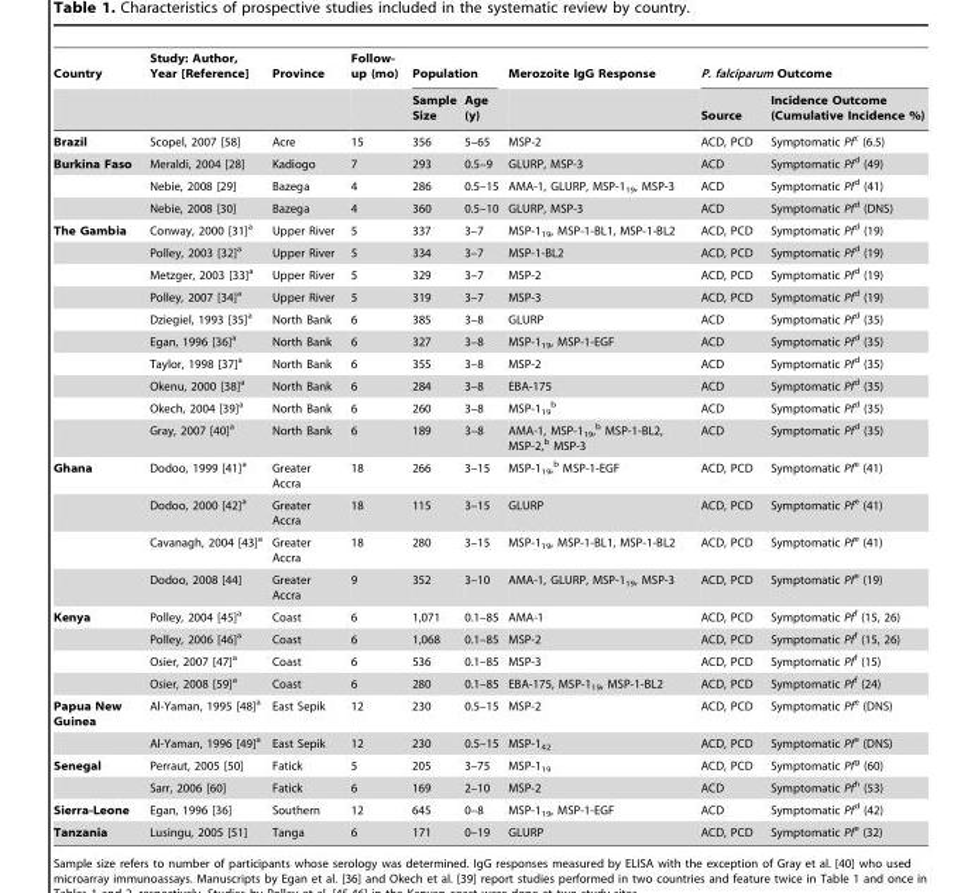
<table><thead><tr><td rowspan="2">Country</td><td rowspan="2">Study: Author, Year [Reference]</td><td rowspan="2">Province</td><td rowspan="2">Follow- up (mo)</td><td colspan="2">Population</td><td rowspan="2">Merozoite IgG Response</td><td colspan="2">P. falciparum Outcome</td></tr><tr><td>Sample Size</td><td>Age (y)</td><td>Source</td><td>Incidence Outcome (Cumulative Incidence %)</td></tr></thead><tbody><tr><td>Brazil</td><td>Scopel, 2007 [58]</td><td>Acre</td><td>15</td><td>356</td><td>5–65</td><td>MSP-2</td><td>ACD, PCD</td><td>Symptomatic Pfc (6.5)</td></tr><tr><td rowspan="3">Burkina Faso</td><td>Meraldi, 2004 [28]</td><td>Kadiogo</td><td>7</td><td>293</td><td>0.5–9</td><td>GLURP, MSP-3</td><td>ACD</td><td>Symptomatic Pfd (49)</td></tr><tr><td>Nebie, 2008 [29]</td><td>Bazega</td><td>4</td><td>286</td><td>0.5–15</td><td>AMA-1, GLURP, MSP-1<sub>19</sub>, MSP-3</td><td>ACD</td><td>Symptomatic Pfd (41)</td></tr><tr><td>Nebie, 2008 [30]</td><td>Bazega</td><td>4</td><td>360</td><td>0.5–10</td><td>GLURP, MSP-3</td><td>ACD</td><td>Symptomatic Pfd (DNS)</td></tr><tr><td rowspan="10">The Gambia</td><td>Conway, 2000 [31]a</td><td>Upper River</td><td>5</td><td>337</td><td>3–7</td><td>MSP-1<sub>19</sub>, MSP-1-BL1, MSP-1-BL2</td><td>ACD, PCD</td><td>Symptomatic Pfd (19)</td></tr><tr><td>Polley, 2003 [32]a</td><td>Upper River</td><td>5</td><td>334</td><td>3–7</td><td>MSP-1-BL2</td><td>ACD, PCD</td><td>Symptomatic Pfd (19)</td></tr><tr><td>Metzger, 2003 [33]a</td><td>Upper River</td><td>5</td><td>329</td><td>3–7</td><td>MSP-2</td><td>ACD, PCD</td><td>Symptomatic Pfd (19)</td></tr><tr><td>Polley, 2007 [34]a</td><td>Upper River</td><td>5</td><td>319</td><td>3–7</td><td>MSP-3</td><td>ACD, PCD</td><td>Symptomatic Pfd (19)</td></tr><tr><td>Dziegiel, 1993 [35]a</td><td>North Bank</td><td>6</td><td>385</td><td>3–8</td><td>GLURP</td><td>ACD</td><td>Symptomatic Pfd (35)</td></tr><tr><td>Egan, 1996 [36]a</td><td>North Bank</td><td>6</td><td>327</td><td>3–8</td><td>MSP-1<sub>19</sub>, MSP-1-EGF</td><td>ACD</td><td>Symptomatic Pfd (35)</td></tr><tr><td>Taylor, 1998 [37]a</td><td>North Bank</td><td>6</td><td>355</td><td>3–8</td><td>MSP-2</td><td>ACD</td><td>Symptomatic Pfd (35)</td></tr><tr><td>Okenu, 2000 [38]a</td><td>North Bank</td><td>6</td><td>284</td><td>3–8</td><td>EBA-175</td><td>ACD</td><td>Symptomatic Pfd (35)</td></tr><tr><td>Okech, 2004 [39]a</td><td>North Bank</td><td>6</td><td>260</td><td>3–8</td><td>MSP-1<sub>19</sub> b</td><td>ACD</td><td>Symptomatic Pfd (35)</td></tr><tr><td>Gray, 2007 [40]a</td><td>North Bank</td><td>6</td><td>189</td><td>3–8</td><td>AMA-1, MSP-1<sub>19</sub>,<sup>b</sup> MSP-1-BL2, MSP-2,<sup>b</sup> MSP-3</td><td>ACD</td><td>Symptomatic Pfd (35)</td></tr><tr><td rowspan="4">Ghana</td><td>Dodoo, 1999 [41]a</td><td>Greater Accra</td><td>18</td><td>266</td><td>3–15</td><td>MSP-1<sub>19</sub>,<sup>b</sup> MSP-1-EGF</td><td>ACD, PCD</td><td>Symptomatic Pfe (41)</td></tr><tr><td>Dodoo, 2000 [42]a</td><td>Greater Accra</td><td>18</td><td>115</td><td>3–15</td><td>GLURP</td><td>ACD, PCD</td><td>Symptomatic Pfe (41)</td></tr><tr><td>Cavanagh, 2004 [43]a</td><td>Greater Accra</td><td>18</td><td>280</td><td>3–15</td><td>MSP-1<sub>19</sub>, MSP-1-BL1, MSP-1-BL2</td><td>ACD, PCD</td><td>Symptomatic Pfe (41)</td></tr><tr><td>Dodoo, 2008 [44]</td><td>Greater Accra</td><td>9</td><td>352</td><td>3–10</td><td>AMA-1, GLURP, MSP-1<sub>19</sub>, MSP-3</td><td>ACD, PCD</td><td>Symptomatic Pfe (19)</td></tr><tr><td rowspan="4">Kenya</td><td>Polley, 2004 [45]a</td><td>Coast</td><td>6</td><td>1,071</td><td>0.1–85</td><td>AMA-1</td><td>ACD, PCD</td><td>Symptomatic Pff (15, 26)</td></tr><tr><td>Polley, 2006 [46]a</td><td>Coast</td><td>6</td><td>1,068</td><td>0.1–85</td><td>MSP-2</td><td>ACD, PCD</td><td>Symptomatic Pff (15, 26)</td></tr><tr><td>Osier, 2007 [47]a</td><td>Coast</td><td>6</td><td>536</td><td>0.1–85</td><td>MSP-3</td><td>ACD, PCD</td><td>Symptomatic Pff (15)</td></tr><tr><td>Osier, 2008 [59]a</td><td>Coast</td><td>6</td><td>280</td><td>0.1–85</td><td>EBA-175, MSP-1<sub>19</sub>, MSP-1-BL2</td><td>ACD, PCD</td><td>Symptomatic Pff (24)</td></tr><tr><td rowspan="2">Papua New Guinea</td><td>Al-Yaman, 1995 [48]a</td><td>East Sepik</td><td>12</td><td>230</td><td>0.5–15</td><td>MSP-2</td><td>ACD, PCD</td><td>Symptomatic Pfe (DNS)</td></tr><tr><td>Al-Yaman, 1996 [49]a</td><td>East Sepik</td><td>12</td><td>230</td><td>0.5–15</td><td>MSP-1<sub>42</sub></td><td>ACD, PCD</td><td>Symptomatic Pfe (DNS)</td></tr><tr><td rowspan="2">Senegal</td><td>Perraut, 2005 [50]</td><td>Fatick</td><td>5</td><td>205</td><td>3–75</td><td>MSP-1<sub>19</sub></td><td>ACD, PCD</td><td>Symptomatic Pfg (60)</td></tr><tr><td>Sarr, 2006 [60]</td><td>Fatick</td><td>6</td><td>169</td><td>2–10</td><td>MSP-2</td><td>ACD</td><td>Symptomatic Pfh (53)</td></tr><tr><td>Sierra-Leone</td><td>Egan, 1996 [36]</td><td>Southern</td><td>12</td><td>645</td><td>0–8</td><td>MSP-1<sub>19</sub>, MSP-1-EGF</td><td>ACD</td><td>Symptomatic Pfd (42)</td></tr><tr><td>Tanzania</td><td>Lusingu, 2005 [51]</td><td>Tanga</td><td>6</td><td>171</td><td>0–19</td><td>GLURP</td><td>ACD, PCD</td><td>Symptomatic Pfe (32)</td></tr></tbody></table>